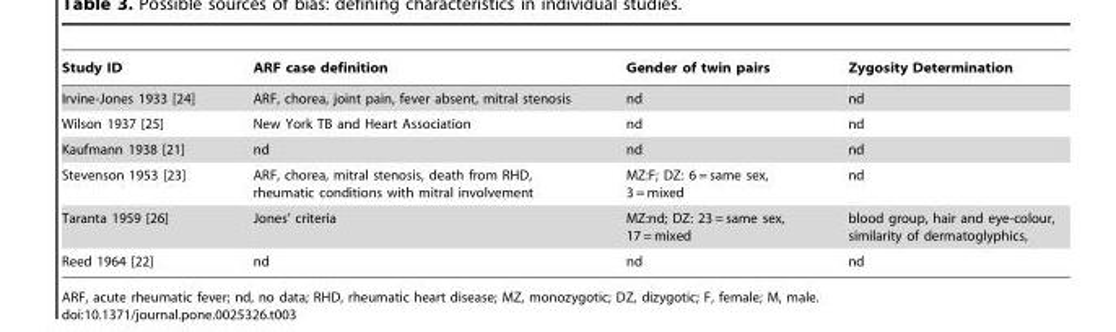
<table><thead><tr><td>Study ID</td><td>ARF case definition</td><td>Gender of twin pairs</td><td>Zygosity Determination</td></tr></thead><tbody><tr><td>Irvine-Jones 1933 [24]</td><td>ARF, chorea, joint pain, fever absent, mitral stenosis</td><td>nd</td><td>nd</td></tr><tr><td>Wilson 1937 [25]</td><td>New York TB and Heart Association</td><td>nd</td><td>nd</td></tr><tr><td>Kaufmann 1938 [21]</td><td>nd</td><td>nd</td><td>nd</td></tr><tr><td>Stevenson 1953 [23]</td><td>ARF, chorea, mitral stenosis, death from RHD, rheumatic conditions with mitral involvement</td><td>MZ:F; DZ: 6 = same sex, 3 = mixed</td><td>nd</td></tr><tr><td>Taranta 1959 [26]</td><td>Jones’ criteria</td><td>MZ:nd; DZ: 23 = same sex, 17 = mixed</td><td>blood group, hair and eye-colour, similarity of dermatoglyphics,</td></tr><tr><td>Reed 1964 [22]</td><td>nd</td><td>nd</td><td>nd</td></tr></tbody></table>